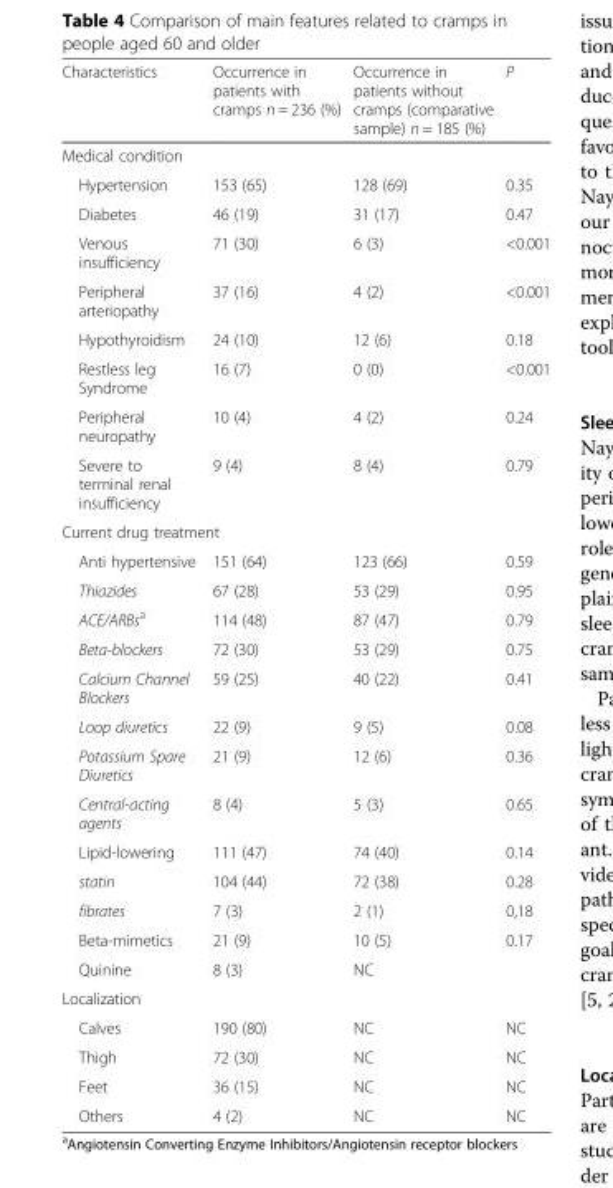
<table><thead><tr><td>Characteristics</td><td>Occurrence in patients with cramps n = 236 (%)</td><td>Occurrence in patients without cramps (comparative sample) n = 185 (%)</td><td>P</td></tr></thead><tbody><tr><td colspan="4">Medical condition</td></tr><tr><td>Hypertension</td><td>153 (65)</td><td>128 (69)</td><td>0.35</td></tr><tr><td>Diabetes</td><td>46 (19)</td><td>31 (17)</td><td>0.47</td></tr><tr><td>Venous insufficiency</td><td>71 (30)</td><td>6 (3)</td><td>&lt;0.001</td></tr><tr><td>Peripheral arteriopathy</td><td>37 (16)</td><td>4 (2)</td><td>&lt;0.001</td></tr><tr><td>Hypothyroidism</td><td>24 (10)</td><td>12 (6)</td><td>0.18</td></tr><tr><td>Restless leg Syndrome</td><td>16 (7)</td><td>0 (0)</td><td>&lt;0.001</td></tr><tr><td>Peripheral neuropathy</td><td>10 (4)</td><td>4 (2)</td><td>0.24</td></tr><tr><td>Severe to terminal renal insufficiency</td><td>9 (4)</td><td>8 (4)</td><td>0.79</td></tr><tr><td colspan="4">Current drug treatment</td></tr><tr><td>Anti hypertensive</td><td>151 (64)</td><td>123 (66)</td><td>0.59</td></tr><tr><td>Thiazides</td><td>67 (28)</td><td>53 (29)</td><td>0.95</td></tr><tr><td>ACE/ARBs<sup>a</sup></td><td>114 (48)</td><td>87 (47)</td><td>0.79</td></tr><tr><td>Beta-blockers</td><td>72 (30)</td><td>53 (29)</td><td>0.75</td></tr><tr><td>Calcium Channel Blockers</td><td>59 (25)</td><td>40 (22)</td><td>0.41</td></tr><tr><td>Loop diuretics</td><td>22 (9)</td><td>9 (5)</td><td>0.08</td></tr><tr><td>Potassium Spare Diuretics</td><td>21 (9)</td><td>12 (6)</td><td>0.36</td></tr><tr><td>Central-acting agents</td><td>8 (4)</td><td>5 (3)</td><td>0.65</td></tr><tr><td>Lipid-lowering</td><td>111 (47)</td><td>74 (40)</td><td>0.14</td></tr><tr><td>statin</td><td>104 (44)</td><td>72 (38)</td><td>0.28</td></tr><tr><td>fibrates</td><td>7 (3)</td><td>2 (1)</td><td>0,18</td></tr><tr><td>Beta-mimetics</td><td>21 (9)</td><td>10 (5)</td><td>0.17</td></tr><tr><td>Quinine</td><td>8 (3)</td><td>NC</td><td></td></tr><tr><td colspan="4">Localization</td></tr><tr><td>Calves</td><td>190 (80)</td><td>NC</td><td>NC</td></tr><tr><td>Thigh</td><td>72 (30)</td><td>NC</td><td>NC</td></tr><tr><td>Feet</td><td>36 (15)</td><td>NC</td><td>NC</td></tr><tr><td>Others</td><td>4 (2)</td><td>NC</td><td>NC</td></tr></tbody></table>